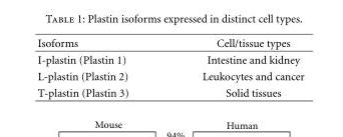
<table><thead><tr><td>Isoforms</td><td>Cell/tissue types</td></tr></thead><tbody><tr><td>I-plastin (Plastin 1)</td><td>Intestine and kidney</td></tr><tr><td>L-plastin (Plastin 2)</td><td>Leukocytes and cancer</td></tr><tr><td>T-plastin (Plastin 3)</td><td>Solid tissues</td></tr></tbody></table>